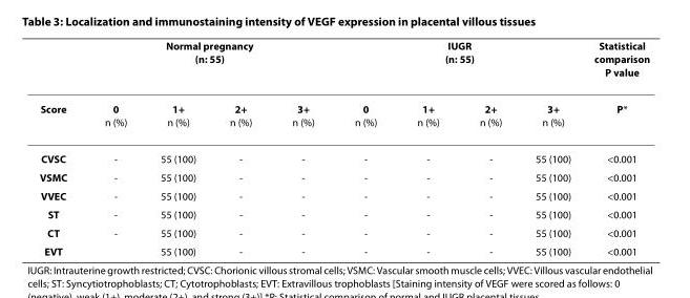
<table><thead><tr><td rowspan="2">Score</td><td colspan="4">Normal pregnancy (n: 55)</td><td colspan="4">IUGR (n: 55)</td><td rowspan="2">Statistical comparison P value P*</td></tr><tr><td>0 n (%)</td><td>1+ n (%)</td><td>2+ n (%)</td><td>3+ n (%)</td><td>0 n (%)</td><td>1+ n (%)</td><td>2+ n (%)</td><td>3+ n (%)</td></tr></thead><tbody><tr><td>CVSC</td><td>-</td><td>55 (100)</td><td>-</td><td>-</td><td>-</td><td>-</td><td>-</td><td>55 (100)</td><td>&lt;0.001</td></tr><tr><td>VSMC</td><td>-</td><td>55 (100)</td><td>-</td><td>-</td><td>-</td><td>-</td><td>-</td><td>55 (100)</td><td>&lt;0.001</td></tr><tr><td>VVEC</td><td>-</td><td>55 (100)</td><td>-</td><td>-</td><td>-</td><td>-</td><td>-</td><td>55 (100)</td><td>&lt;0.001</td></tr><tr><td>ST</td><td>-</td><td>55 (100)</td><td>-</td><td>-</td><td>-</td><td>-</td><td>-</td><td>55 (100)</td><td>&lt;0.001</td></tr><tr><td>CT</td><td>-</td><td>55 (100)</td><td>-</td><td>-</td><td>-</td><td>-</td><td>-</td><td>55 (100)</td><td>&lt;0.001</td></tr><tr><td>EVT</td><td></td><td>55 (100)</td><td>-</td><td>-</td><td>-</td><td>-</td><td>-</td><td>55 (100)</td><td>&lt;0.001</td></tr></tbody></table>